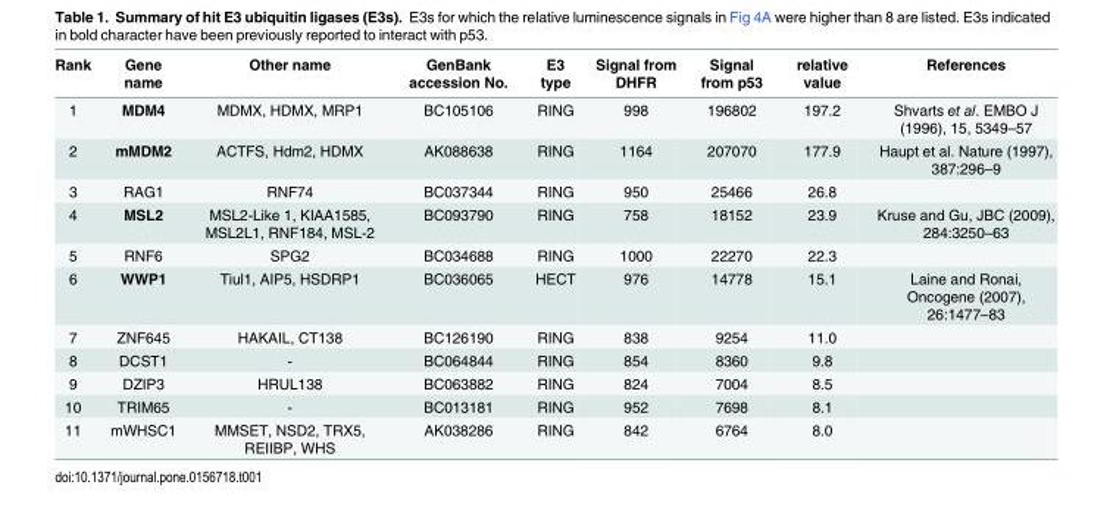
<table><thead><tr><td>Rank</td><td>Gene name</td><td>Other name</td><td>GenBank accession No.</td><td>E3 type</td><td>Signal from DHFR</td><td>Signal from p53</td><td>relative value</td><td>References</td></tr></thead><tbody><tr><td>1</td><td>MDM4</td><td>MDMX, HDMX, MRP1</td><td>BC105106</td><td>RING</td><td>998</td><td>196802</td><td>197.2</td><td>Shvarts et al. EMBO J (1996), 15, 5349–57</td></tr><tr><td>2</td><td>mMDM2</td><td>ACTFS, Hdm2, HDMX</td><td>AK088638</td><td>RING</td><td>1164</td><td>207070</td><td>177.9</td><td>Haupt et al. Nature (1997), 387:296–9</td></tr><tr><td>3</td><td>RAG1</td><td>RNF74</td><td>BC037344</td><td>RING</td><td>950</td><td>25466</td><td>26.8</td><td></td></tr><tr><td>4</td><td>MSL2</td><td>MSL2-Like 1, KIAA1585, MSL2L1, RNF184, MSL-2</td><td>BC093790</td><td>RING</td><td>758</td><td>18152</td><td>23.9</td><td>Kruse and Gu, JBC (2009), 284:3250–63</td></tr><tr><td>5</td><td>RNF6</td><td>SPG2</td><td>BC034688</td><td>RING</td><td>1000</td><td>22270</td><td>22.3</td><td></td></tr><tr><td>6</td><td>WWP1</td><td>Tiul1, AIP5, HSDRP1</td><td>BC036065</td><td>HECT</td><td>976</td><td>14778</td><td>15.1</td><td>Laine and Ronai, Oncogene (2007), 26:1477–83</td></tr><tr><td>7</td><td>ZNF645</td><td>HAKAIL, CT138</td><td>BC126190</td><td>RING</td><td>838</td><td>9254</td><td>11.0</td><td></td></tr><tr><td>8</td><td>DCST1</td><td>-</td><td>BC064844</td><td>RING</td><td>854</td><td>8360</td><td>9.8</td><td></td></tr><tr><td>9</td><td>DZIP3</td><td>HRUL138</td><td>BC063882</td><td>RING</td><td>824</td><td>7004</td><td>8.5</td><td></td></tr><tr><td>10</td><td>TRIM65</td><td>-</td><td>BC013181</td><td>RING</td><td>952</td><td>7698</td><td>8.1</td><td></td></tr><tr><td>11</td><td>mWHSC1</td><td>MMSET, NSD2, TRX5, REIIBP, WHS</td><td>AK038286</td><td>RING</td><td>842</td><td>6764</td><td>8.0</td><td></td></tr></tbody></table>